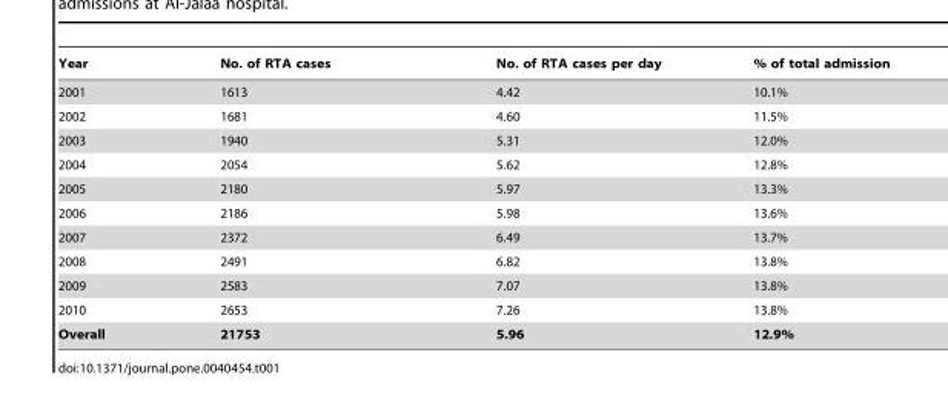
<table><thead><tr><td>Year</td><td>No. of RTA cases</td><td>No. of RTA cases per day</td><td>% of total admission</td></tr></thead><tbody><tr><td>2001</td><td>1613</td><td>4.42</td><td>10.1%</td></tr><tr><td>2002</td><td>1681</td><td>4.60</td><td>11.5%</td></tr><tr><td>2003</td><td>1940</td><td>5.31</td><td>12.0%</td></tr><tr><td>2004</td><td>2054</td><td>5.62</td><td>12.8%</td></tr><tr><td>2005</td><td>2180</td><td>5.97</td><td>13.3%</td></tr><tr><td>2006</td><td>2186</td><td>5.98</td><td>13.6%</td></tr><tr><td>2007</td><td>2372</td><td>6.49</td><td>13.7%</td></tr><tr><td>2008</td><td>2491</td><td>6.82</td><td>13.8%</td></tr><tr><td>2009</td><td>2583</td><td>7.07</td><td>13.8%</td></tr><tr><td>2010</td><td>2653</td><td>7.26</td><td>13.8%</td></tr><tr><td>Overall</td><td>21753</td><td>5.96</td><td>12.9%</td></tr></tbody></table>